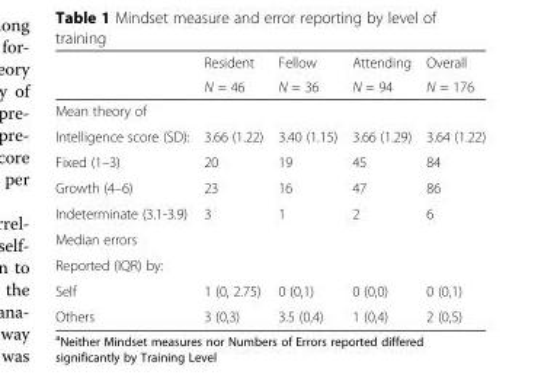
<table><thead><tr><td rowspan="2"></td><td rowspan="2">Resident N = 46</td><td rowspan="2">Fellow N = 36</td><td rowspan="2">Attending N = 94</td><td rowspan="2">Overall N = 176</td></tr><tr></tr></thead><tbody><tr><td colspan="5">Mean theory of</td></tr><tr><td>Intelligence score (SD):</td><td>3.66 (1.22)</td><td>3.40 (1.15)</td><td>3.66 (1.29)</td><td>3.64 (1.22)</td></tr><tr><td>Fixed (1–3)</td><td>20</td><td>19</td><td>45</td><td>84</td></tr><tr><td>Growth (4–6)</td><td>23</td><td>16</td><td>47</td><td>86</td></tr><tr><td>Indeterminate (3.1-3.9)</td><td>3</td><td>1</td><td>2</td><td>6</td></tr><tr><td colspan="5">Median errors</td></tr><tr><td colspan="5">Reported (IQR) by:</td></tr><tr><td>Self</td><td>1 (0, 2.75)</td><td>0 (0,1)</td><td>0 (0,0)</td><td>0 (0,1)</td></tr><tr><td>Others</td><td>3 (0,3)</td><td>3.5 (0,4)</td><td>1 (0,4)</td><td>2 (0,5)</td></tr></tbody></table>